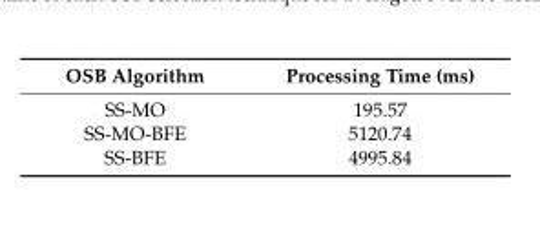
<table><thead><tr><td>OSB Algorithm</td><td>Processing Time (ms)</td></tr></thead><tbody><tr><td>SS-MO</td><td>195.57</td></tr><tr><td>SS-MO-BFE</td><td>5120.74</td></tr><tr><td>SS-BFE</td><td>4995.84</td></tr></tbody></table>